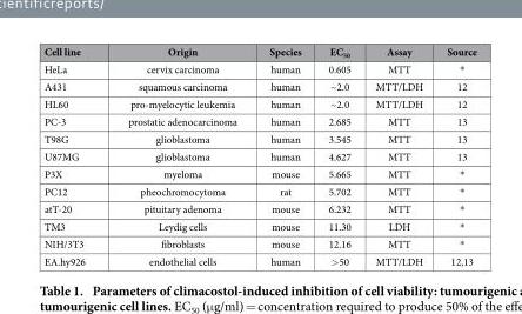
<table><thead><tr><td>Cell line</td><td>Origin</td><td>Species</td><td>EC<sub>50</sub></td><td>Assay</td><td>Source</td></tr></thead><tbody><tr><td>HeLa</td><td>cervix carcinoma</td><td>human</td><td>0.605</td><td>MTT</td><td>*</td></tr><tr><td>A431</td><td>squamous carcinoma</td><td>human</td><td>~2.0</td><td>MTT/LDH</td><td>12</td></tr><tr><td>HL60</td><td>pro-myelocytic leukemia</td><td>human</td><td>~2.0</td><td>MTT/LDH</td><td>12</td></tr><tr><td>PC-3</td><td>prostatic adenocarcinoma</td><td>human</td><td>2.685</td><td>MTT</td><td>13</td></tr><tr><td>T98G</td><td>glioblastoma</td><td>human</td><td>3.545</td><td>MTT</td><td>13</td></tr><tr><td>U87MG</td><td>glioblastoma</td><td>human</td><td>4.627</td><td>MTT</td><td>13</td></tr><tr><td>P3X</td><td>myeloma</td><td>mouse</td><td>5.665</td><td>MTT</td><td>*</td></tr><tr><td>PC12</td><td>pheochromocytoma</td><td>rat</td><td>5.702</td><td>MTT</td><td>*</td></tr><tr><td>atT-20</td><td>pituitary adenoma</td><td>mouse</td><td>6.232</td><td>MTT</td><td>*</td></tr><tr><td>TM3</td><td>Leydig cells</td><td>mouse</td><td>11.30</td><td>LDH</td><td>*</td></tr><tr><td>NIH/3T3</td><td>fibroblasts</td><td>mouse</td><td>12.16</td><td>MTT</td><td>*</td></tr><tr><td>EA.hy926</td><td>endothelial cells</td><td>human</td><td>&gt; 50</td><td>MTT/LDH</td><td>12,13</td></tr></tbody></table>